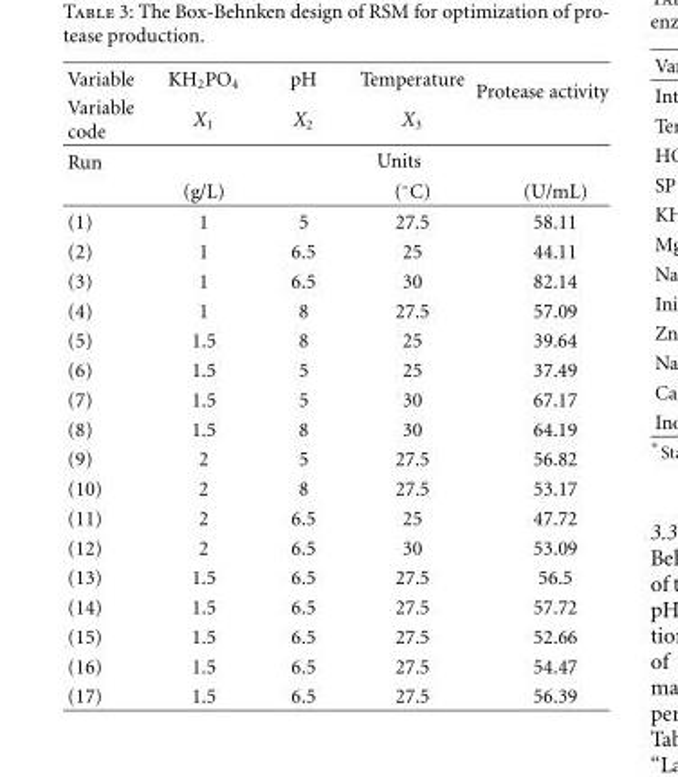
<table><thead><tr><td rowspan="2">Variable Variable code</td><td rowspan="2">KH2PO4 X1</td><td rowspan="2">pH X2</td><td rowspan="2">Temperature X3</td><td rowspan="2">Protease activity</td></tr><tr></tr></thead><tbody><tr><td rowspan="2">Run</td><td colspan="4">Units</td></tr><tr><td>(g/L)</td><td></td><td>(◦C)</td><td>(U/mL)</td></tr><tr><td>(1)</td><td>1</td><td>5</td><td>27.5</td><td>58.11</td></tr><tr><td>(2)</td><td>1</td><td>6.5</td><td>25</td><td>44.11</td></tr><tr><td>(3)</td><td>1</td><td>6.5</td><td>30</td><td>82.14</td></tr><tr><td>(4)</td><td>1</td><td>8</td><td>27.5</td><td>57.09</td></tr><tr><td>(5)</td><td>1.5</td><td>8</td><td>25</td><td>39.64</td></tr><tr><td>(6)</td><td>1.5</td><td>5</td><td>25</td><td>37.49</td></tr><tr><td>(7)</td><td>1.5</td><td>5</td><td>30</td><td>67.17</td></tr><tr><td>(8)</td><td>1.5</td><td>8</td><td>30</td><td>64.19</td></tr><tr><td>(9)</td><td>2</td><td>5</td><td>27.5</td><td>56.82</td></tr><tr><td>(10)</td><td>2</td><td>8</td><td>27.5</td><td>53.17</td></tr><tr><td>(11)</td><td>2</td><td>6.5</td><td>25</td><td>47.72</td></tr><tr><td>(12)</td><td>2</td><td>6.5</td><td>30</td><td>53.09</td></tr><tr><td>(13)</td><td>1.5</td><td>6.5</td><td>27.5</td><td>56.5</td></tr><tr><td>(14)</td><td>1.5</td><td>6.5</td><td>27.5</td><td>57.72</td></tr><tr><td>(15)</td><td>1.5</td><td>6.5</td><td>27.5</td><td>52.66</td></tr><tr><td>(16)</td><td>1.5</td><td>6.5</td><td>27.5</td><td>54.47</td></tr><tr><td>(17)</td><td>1.5</td><td>6.5</td><td>27.5</td><td>56.39</td></tr></tbody></table>